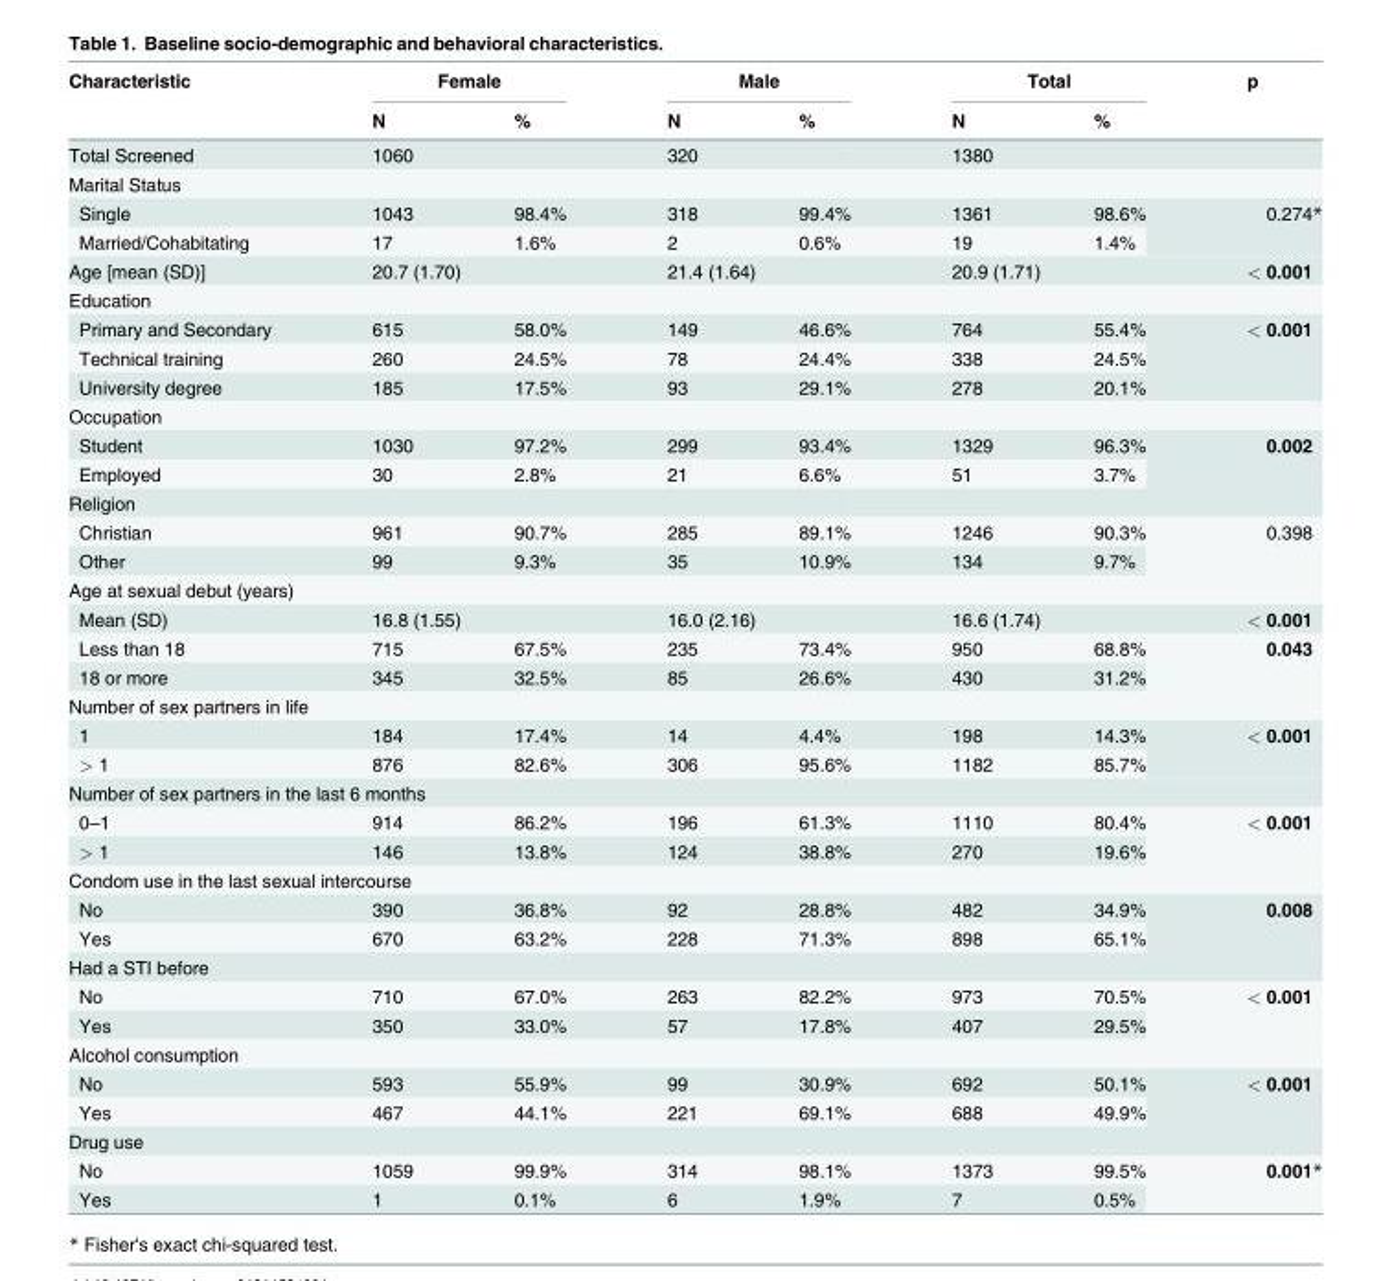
<table><thead><tr><td rowspan="2">Characteristic</td><td colspan="2">Female</td><td colspan="2">Male</td><td colspan="2">Total</td><td rowspan="2">p</td></tr><tr><td>N</td><td>%</td><td>N</td><td>%</td><td>N</td><td>%</td></tr></thead><tbody><tr><td>Total Screened</td><td>1060</td><td></td><td>320</td><td></td><td>1380</td><td></td><td></td></tr><tr><td colspan="8">Marital Status</td></tr><tr><td>Single</td><td>1043</td><td>98.4%</td><td>318</td><td>99.4%</td><td>1361</td><td>98.6%</td><td rowspan="2">0.274*</td></tr><tr><td>Married/Cohabitating</td><td>17</td><td>1.6%</td><td>2</td><td>0.6%</td><td>19</td><td>1.4%</td></tr><tr><td>Age [mean (SD)]</td><td colspan="2">20.7 (1.70)</td><td colspan="2">21.4 (1.64)</td><td colspan="2">20.9 (1.71)</td><td>&lt; 0.001</td></tr><tr><td colspan="8">Education</td></tr><tr><td>Primary and Secondary</td><td>615</td><td>58.0%</td><td>149</td><td>46.6%</td><td>764</td><td>55.4%</td><td rowspan="3">&lt; 0.001</td></tr><tr><td>Technical training</td><td>260</td><td>24.5%</td><td>78</td><td>24.4%</td><td>338</td><td>24.5%</td></tr><tr><td>University degree</td><td>185</td><td>17.5%</td><td>93</td><td>29.1%</td><td>278</td><td>20.1%</td></tr><tr><td colspan="8">Occupation</td></tr><tr><td>Student</td><td>1030</td><td>97.2%</td><td>299</td><td>93.4%</td><td>1329</td><td>96.3%</td><td rowspan="2">0.002</td></tr><tr><td>Employed</td><td>30</td><td>2.8%</td><td>21</td><td>6.6%</td><td>51</td><td>3.7%</td></tr><tr><td colspan="8">Religion</td></tr><tr><td>Christian</td><td>961</td><td>90.7%</td><td>285</td><td>89.1%</td><td>1246</td><td>90.3%</td><td rowspan="2">0.398</td></tr><tr><td>Other</td><td>99</td><td>9.3%</td><td>35</td><td>10.9%</td><td>134</td><td>9.7%</td></tr><tr><td colspan="8">Age at sexual debut (years)</td></tr><tr><td>Mean (SD)</td><td colspan="2">16.8 (1.55)</td><td colspan="2">16.0 (2.16)</td><td colspan="2">16.6 (1.74)</td><td>&lt; 0.001</td></tr><tr><td>Less than 18</td><td>715</td><td>67.5%</td><td>235</td><td>73.4%</td><td>950</td><td>68.8%</td><td rowspan="2">0.043</td></tr><tr><td>18 or more</td><td>345</td><td>32.5%</td><td>85</td><td>26.6%</td><td>430</td><td>31.2%</td></tr><tr><td colspan="8">Number of sex partners in life</td></tr><tr><td>1</td><td>184</td><td>17.4%</td><td>14</td><td>4.4%</td><td>198</td><td>14.3%</td><td rowspan="2">&lt; 0.001</td></tr><tr><td>&gt; 1</td><td>876</td><td>82.6%</td><td>306</td><td>95.6%</td><td>1182</td><td>85.7%</td></tr><tr><td colspan="8">Number of sex partners in the last 6 months</td></tr><tr><td>0–1</td><td>914</td><td>86.2%</td><td>196</td><td>61.3%</td><td>1110</td><td>80.4%</td><td rowspan="2">&lt; 0.001</td></tr><tr><td>&gt; 1</td><td>146</td><td>13.8%</td><td>124</td><td>38.8%</td><td>270</td><td>19.6%</td></tr><tr><td colspan="8">Condom use in the last sexual intercourse</td></tr><tr><td>No</td><td>390</td><td>36.8%</td><td>92</td><td>28.8%</td><td>482</td><td>34.9%</td><td rowspan="2">0.008</td></tr><tr><td>Yes</td><td>670</td><td>63.2%</td><td>228</td><td>71.3%</td><td>898</td><td>65.1%</td></tr><tr><td colspan="8">Had a STI before</td></tr><tr><td>No</td><td>710</td><td>67.0%</td><td>263</td><td>82.2%</td><td>973</td><td>70.5%</td><td rowspan="2">&lt; 0.001</td></tr><tr><td>Yes</td><td>350</td><td>33.0%</td><td>57</td><td>17.8%</td><td>407</td><td>29.5%</td></tr><tr><td colspan="8">Alcohol consumption</td></tr><tr><td>No</td><td>593</td><td>55.9%</td><td>99</td><td>30.9%</td><td>692</td><td>50.1%</td><td rowspan="2">&lt; 0.001</td></tr><tr><td>Yes</td><td>467</td><td>44.1%</td><td>221</td><td>69.1%</td><td>688</td><td>49.9%</td></tr><tr><td colspan="8">Drug use</td></tr><tr><td>No</td><td>1059</td><td>99.9%</td><td>314</td><td>98.1%</td><td>1373</td><td>99.5%</td><td rowspan="2">0.001*</td></tr><tr><td>Yes</td><td>1</td><td>0.1%</td><td>6</td><td>1.9%</td><td>7</td><td>0.5%</td></tr></tbody></table>